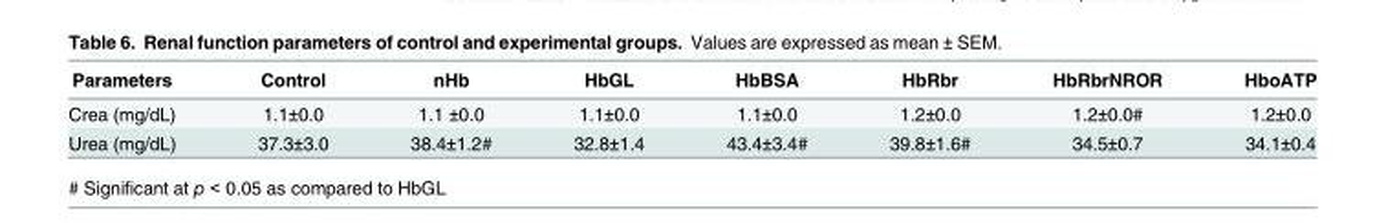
<table><thead><tr><td>Parameters</td><td>Control</td><td>nHb</td><td>HbGL</td><td>HbBSA</td><td>HbRbr</td><td>HbRbrNROR</td><td>HboATP</td></tr></thead><tbody><tr><td>Crea (mg/dL)</td><td>1.1±0.0</td><td>1.1 ±0.0</td><td>1.1±0.0</td><td>1.1±0.0</td><td>1.2±0.0</td><td>1.2±0.0#</td><td>1.2±0.0</td></tr><tr><td>Urea (mg/dL)</td><td>37.3±3.0</td><td>38.4±1.2#</td><td>32.8±1.4</td><td>43.4±3.4#</td><td>39.8±1.6#</td><td>34.5±0.7</td><td>34.1±0.4</td></tr></tbody></table>